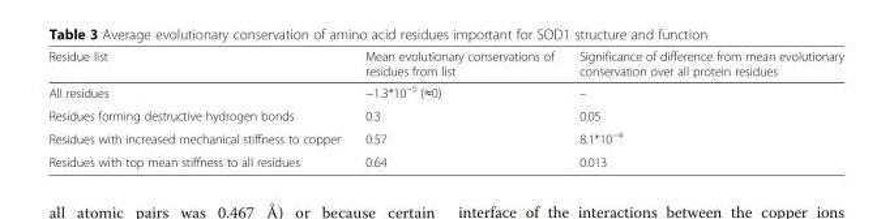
<table><thead><tr><td>Residue list</td><td>Mean evolutionary conservations of residues from list</td><td>Significance of difference from mean evolutionary conservation over all protein residues</td></tr></thead><tbody><tr><td>All residues</td><td>−1.3*10<sup>−5</sup> (≈0)</td><td>–</td></tr><tr><td>Residues forming destructive hydrogen bonds</td><td>0.3</td><td>0.05</td></tr><tr><td>Residues with increased mechanical stiffness to copper</td><td>0.57</td><td>8.1*10<sup>−4</sup></td></tr><tr><td>Residues with top mean stiffness to all residues</td><td>0.64</td><td>0.013</td></tr></tbody></table>